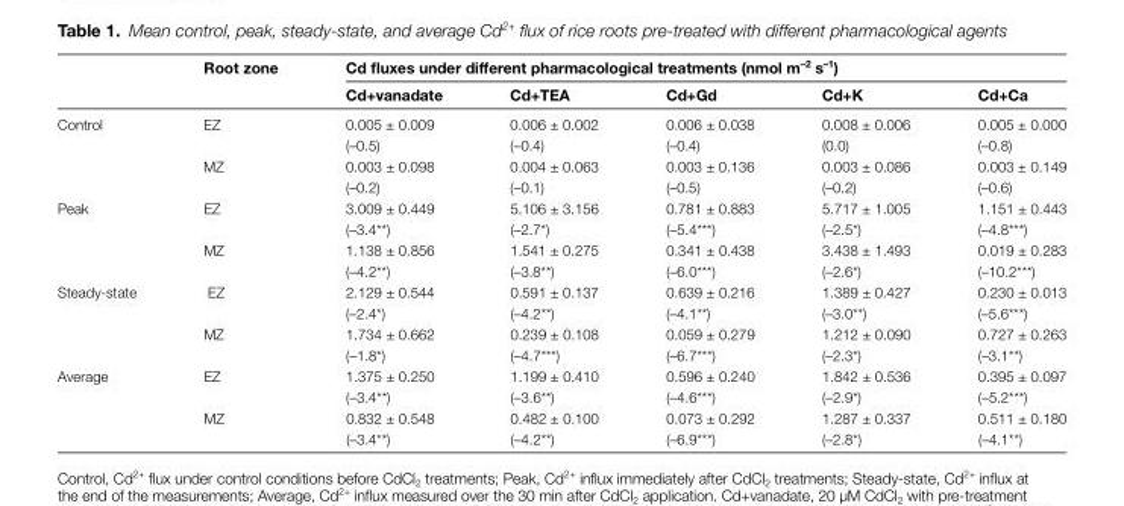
<table><thead><tr><td rowspan="2"></td><td rowspan="2">Root zone</td><td colspan="5">Cd fluxes under different pharmacological treatments (nmol m<sup>–2</sup> s<sup>–1</sup>)</td></tr><tr><td>Cd+vanadate</td><td>Cd+TEA</td><td>Cd+Gd</td><td>Cd+K</td><td>Cd+Ca</td></tr></thead><tbody><tr><td rowspan="4">Control</td><td>EZ</td><td>0.005 ± 0.009</td><td>0.006 ± 0.002</td><td>0.006 ± 0.038</td><td>0.008 ± 0.006</td><td>0.005 ± 0.000</td></tr><tr><td></td><td>(–0.5)</td><td>(–0.4)</td><td>(–0.4)</td><td>(0.0)</td><td>(–0.8)</td></tr><tr><td>MZ</td><td>0.003 ± 0.098</td><td>0.004 ± 0.063</td><td>0.003 ± 0.136</td><td>0.003 ± 0.086</td><td>0.003 ± 0.149</td></tr><tr><td></td><td>(–0.2)</td><td>(–0.1)</td><td>(–0.5)</td><td>(–0.2)</td><td>(–0.6)</td></tr><tr><td rowspan="4">Peak</td><td>EZ</td><td>3.009 ± 0.449</td><td>5.106 ± 3.156</td><td>0.781 ± 0.883</td><td>5.717 ± 1.005</td><td>1.151 ± 0.443</td></tr><tr><td></td><td>(–3.4**)</td><td>(–2.7*)</td><td>(–5.4***)</td><td>(–2.5*)</td><td>(–4.8***)</td></tr><tr><td>MZ</td><td>1.138 ± 0.856</td><td>1.541 ± 0.275</td><td>0.341 ± 0.438</td><td>3.438 ± 1.493</td><td>0.019 ± 0.283</td></tr><tr><td></td><td>(–4.2**)</td><td>(–3.8**)</td><td>(–6.0***)</td><td>(–2.6*)</td><td>(–10.2***)</td></tr><tr><td rowspan="4">Steady-state</td><td>EZ</td><td>2.129 ± 0.544</td><td>0.591 ± 0.137</td><td>0.639 ± 0.216</td><td>1.389 ± 0.427</td><td>0.230 ± 0.013</td></tr><tr><td></td><td>(–2.4*)</td><td>(–4.2**)</td><td>(–4.1**)</td><td>(–3.0**)</td><td>(–5.6***)</td></tr><tr><td>MZ</td><td>1.734 ± 0.662</td><td>0.239 ± 0.108</td><td>0.059 ± 0.279</td><td>1.212 ± 0.090</td><td>0.727 ± 0.263</td></tr><tr><td></td><td>(–1.8*)</td><td>(–4.7***)</td><td>(–6.7***)</td><td>(–2.3*)</td><td>(–3.1**)</td></tr><tr><td rowspan="4">Average</td><td>EZ</td><td>1.375 ± 0.250</td><td>1.199 ± 0.410</td><td>0.596 ± 0.240</td><td>1.842 ± 0.536</td><td>0.395 ± 0.097</td></tr><tr><td></td><td>(–3.4**)</td><td>(–3.6**)</td><td>(–4.6***)</td><td>(–2.9*)</td><td>(–5.2***)</td></tr><tr><td>MZ</td><td>0.832 ± 0.548</td><td>0.482 ± 0.100</td><td>0.073 ± 0.292</td><td>1.287 ± 0.337</td><td>0.511 ± 0.180</td></tr><tr><td></td><td>(–3.4**)</td><td>(–4.2**)</td><td>(–6.9***)</td><td>(–2.8*)</td><td>(–4.1**)</td></tr></tbody></table>